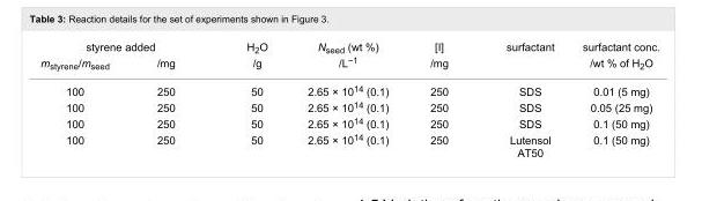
<table><tbody><tr><td colspan="2">styrene added</td><td>H<sub>2</sub>O</td><td>N<sub>seed</sub> (wt %)</td><td>[I]</td><td>surfactant</td><td>surfactant conc.</td></tr><tr><td>m<sub>styrene</sub>/m<sub>seed</sub></td><td>/mg</td><td>/g</td><td>/L<sup>−1</sup></td><td>/mg</td><td></td><td>/wt % of H<sub>2</sub>O</td></tr><tr><td>100</td><td>250</td><td>50</td><td>2.65 × 10<sup>14</sup> (0.1)</td><td>250</td><td>SDS</td><td>0.01 (5 mg)</td></tr><tr><td>100</td><td>250</td><td>50</td><td>2.65 × 10<sup>14</sup> (0.1)</td><td>250</td><td>SDS</td><td>0.05 (25 mg)</td></tr><tr><td>100</td><td>250</td><td>50</td><td>2.65 × 10<sup>14</sup> (0.1)</td><td>250</td><td>SDS</td><td>0.1 (50 mg)</td></tr><tr><td>100</td><td>250</td><td>50</td><td>2.65 × 10<sup>14</sup> (0.1)</td><td>250</td><td>Lutensol AT50</td><td>0.1 (50 mg)</td></tr></tbody></table>